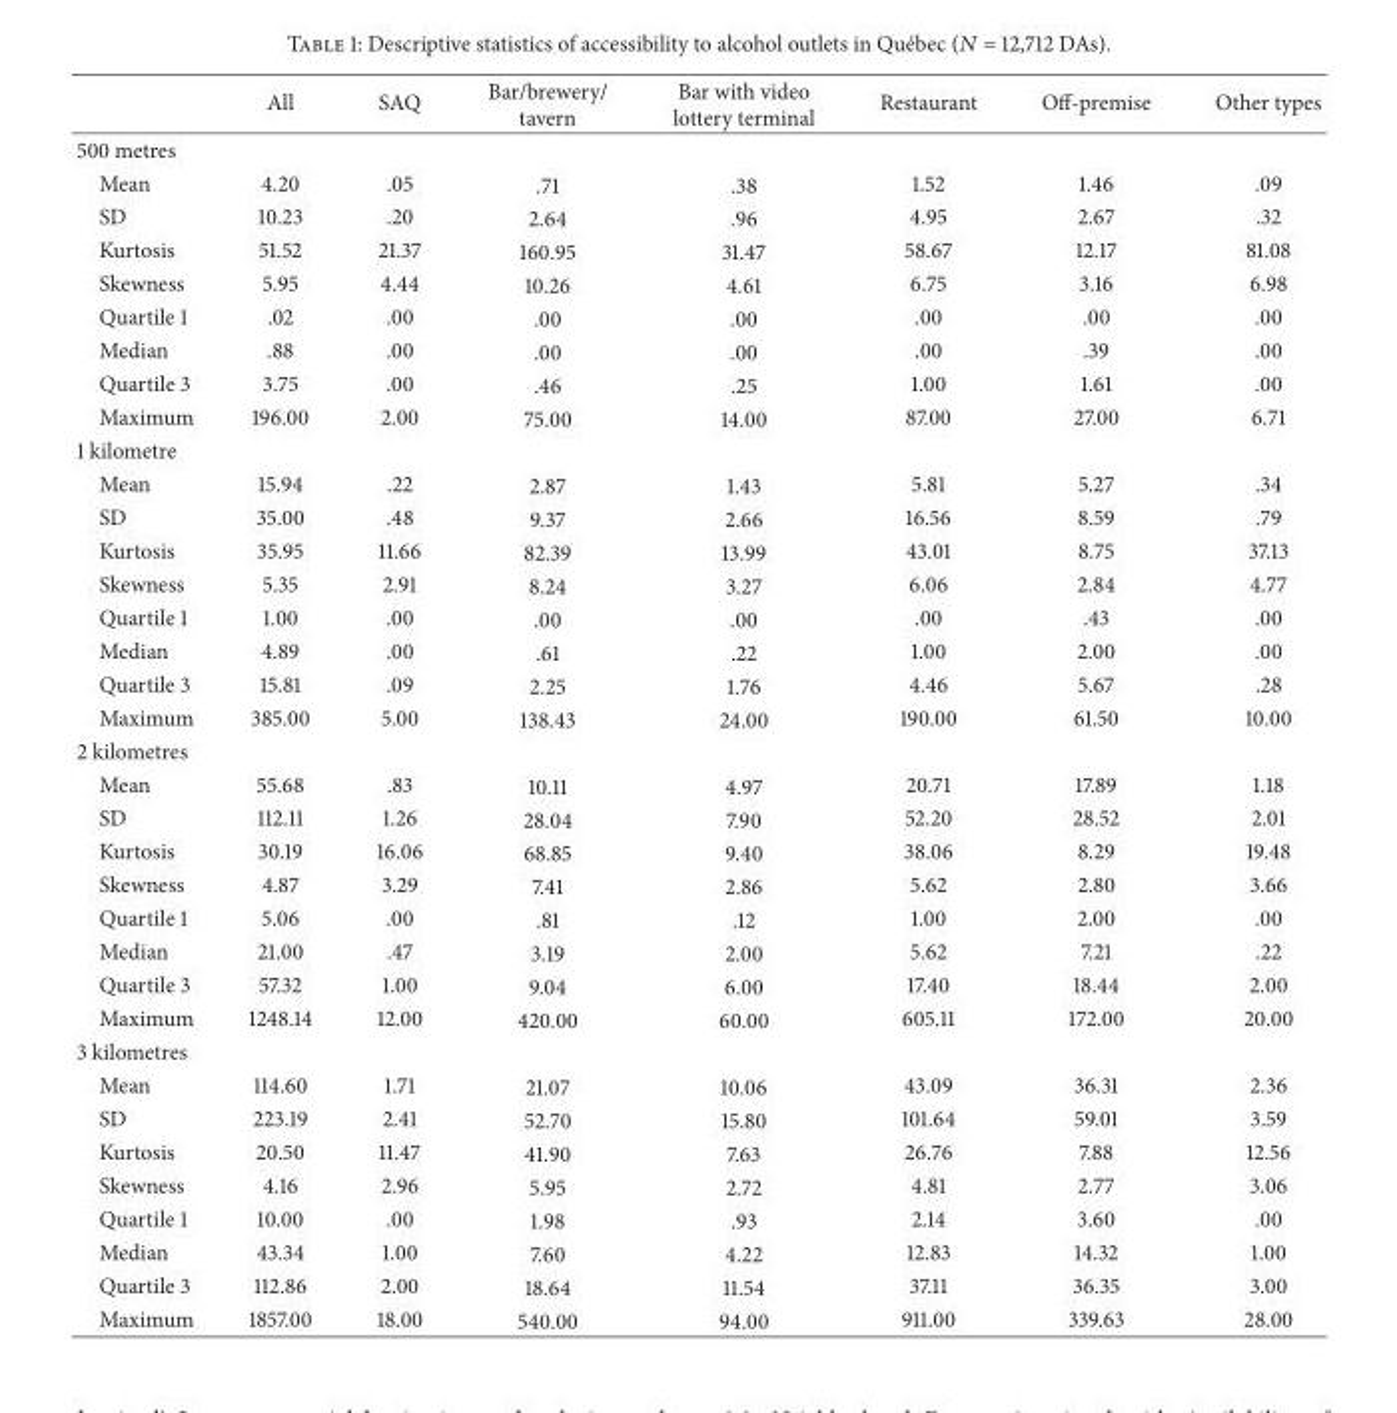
<table><thead><tr><td></td><td>All</td><td>SAQ</td><td>Bar/brewery/ tavern</td><td>Bar with video lottery terminal</td><td>Restaurant</td><td>Off-premise</td><td>Other types</td></tr></thead><tbody><tr><td colspan="8">500 metres</td></tr><tr><td>Mean</td><td>4.20</td><td>.05</td><td>.71</td><td>.38</td><td>1.52</td><td>1.46</td><td>.09</td></tr><tr><td>SD</td><td>10.23</td><td>.20</td><td>2.64</td><td>.96</td><td>4.95</td><td>2.67</td><td>.32</td></tr><tr><td>Kurtosis</td><td>51.52</td><td>21.37</td><td>160.95</td><td>31.47</td><td>58.67</td><td>12.17</td><td>81.08</td></tr><tr><td>Skewness</td><td>5.95</td><td>4.44</td><td>10.26</td><td>4.61</td><td>6.75</td><td>3.16</td><td>6.98</td></tr><tr><td>Quartile 1</td><td>.02</td><td>.00</td><td>.00</td><td>.00</td><td>.00</td><td>.00</td><td>.00</td></tr><tr><td>Median</td><td>.88</td><td>.00</td><td>.00</td><td>.00</td><td>.00</td><td>.39</td><td>.00</td></tr><tr><td>Quartile 3</td><td>3.75</td><td>.00</td><td>.46</td><td>.25</td><td>1.00</td><td>1.61</td><td>.00</td></tr><tr><td>Maximum</td><td>196.00</td><td>2.00</td><td>75.00</td><td>14.00</td><td>87.00</td><td>27.00</td><td>6.71</td></tr><tr><td colspan="8">1 kilometre</td></tr><tr><td>Mean</td><td>15.94</td><td>.22</td><td>2.87</td><td>1.43</td><td>5.81</td><td>5.27</td><td>.34</td></tr><tr><td>SD</td><td>35.00</td><td>.48</td><td>9.37</td><td>2.66</td><td>16.56</td><td>8.59</td><td>.79</td></tr><tr><td>Kurtosis</td><td>35.95</td><td>11.66</td><td>82.39</td><td>13.99</td><td>43.01</td><td>8.75</td><td>37.13</td></tr><tr><td>Skewness</td><td>5.35</td><td>2.91</td><td>8.24</td><td>3.27</td><td>6.06</td><td>2.84</td><td>4.77</td></tr><tr><td>Quartile 1</td><td>1.00</td><td>.00</td><td>.00</td><td>.00</td><td>.00</td><td>.43</td><td>.00</td></tr><tr><td>Median</td><td>4.89</td><td>.00</td><td>.61</td><td>.22</td><td>1.00</td><td>2.00</td><td>.00</td></tr><tr><td>Quartile 3</td><td>15.81</td><td>.09</td><td>2.25</td><td>1.76</td><td>4.46</td><td>5.67</td><td>.28</td></tr><tr><td>Maximum</td><td>385.00</td><td>5.00</td><td>138.43</td><td>24.00</td><td>190.00</td><td>61.50</td><td>10.00</td></tr><tr><td colspan="8">2 kilometres</td></tr><tr><td>Mean</td><td>55.68</td><td>.83</td><td>10.11</td><td>4.97</td><td>20.71</td><td>17.89</td><td>1.18</td></tr><tr><td>SD</td><td>112.11</td><td>1.26</td><td>28.04</td><td>7.90</td><td>52.20</td><td>28.52</td><td>2.01</td></tr><tr><td>Kurtosis</td><td>30.19</td><td>16.06</td><td>68.85</td><td>9.40</td><td>38.06</td><td>8.29</td><td>19.48</td></tr><tr><td>Skewness</td><td>4.87</td><td>3.29</td><td>7.41</td><td>2.86</td><td>5.62</td><td>2.80</td><td>3.66</td></tr><tr><td>Quartile 1</td><td>5.06</td><td>.00</td><td>.81</td><td>.12</td><td>1.00</td><td>2.00</td><td>.00</td></tr><tr><td>Median</td><td>21.00</td><td>.47</td><td>3.19</td><td>2.00</td><td>5.62</td><td>7.21</td><td>.22</td></tr><tr><td>Quartile 3</td><td>57.32</td><td>1.00</td><td>9.04</td><td>6.00</td><td>17.40</td><td>18.44</td><td>2.00</td></tr><tr><td>Maximum</td><td>1248.14</td><td>12.00</td><td>420.00</td><td>60.00</td><td>605.11</td><td>172.00</td><td>20.00</td></tr><tr><td colspan="8">3 kilometres</td></tr><tr><td>Mean</td><td>114.60</td><td>1.71</td><td>21.07</td><td>10.06</td><td>43.09</td><td>36.31</td><td>2.36</td></tr><tr><td>SD</td><td>223.19</td><td>2.41</td><td>52.70</td><td>15.80</td><td>101.64</td><td>59.01</td><td>3.59</td></tr><tr><td>Kurtosis</td><td>20.50</td><td>11.47</td><td>41.90</td><td>7.63</td><td>26.76</td><td>7.88</td><td>12.56</td></tr><tr><td>Skewness</td><td>4.16</td><td>2.96</td><td>5.95</td><td>2.72</td><td>4.81</td><td>2.77</td><td>3.06</td></tr><tr><td>Quartile 1</td><td>10.00</td><td>.00</td><td>1.98</td><td>.93</td><td>2.14</td><td>3.60</td><td>.00</td></tr><tr><td>Median</td><td>43.34</td><td>1.00</td><td>7.60</td><td>4.22</td><td>12.83</td><td>14.32</td><td>1.00</td></tr><tr><td>Quartile 3</td><td>112.86</td><td>2.00</td><td>18.64</td><td>11.54</td><td>37.11</td><td>36.35</td><td>3.00</td></tr><tr><td>Maximum</td><td>1857.00</td><td>18.00</td><td>540.00</td><td>94.00</td><td>911.00</td><td>339.63</td><td>28.00</td></tr></tbody></table>